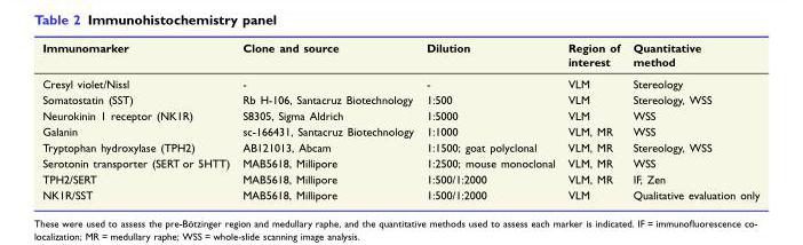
<table><thead><tr><td>Immunomarker</td><td>Clone and source</td><td>Dilution</td><td>Region of interest</td><td>Quantitative method</td></tr></thead><tbody><tr><td>Cresyl violet/Nissl</td><td>-</td><td>-</td><td>VLM</td><td>Stereology</td></tr><tr><td>Somatostatin (SST)</td><td>Rb H-106, Santacruz Biotechnology</td><td>1:500</td><td>VLM</td><td>Stereology, WSS</td></tr><tr><td>Neurokinin 1 receptor (NK1R)</td><td>S8305, Sigma Aldrich</td><td>1:5000</td><td>VLM</td><td>WSS</td></tr><tr><td>Galanin</td><td>sc-166431, Santacruz Biotechnology</td><td>1:1000</td><td>VLM, MR</td><td>WSS</td></tr><tr><td>Tryptophan hydroxylase (TPH2)</td><td>AB121013, Abcam</td><td>1:1500; goat polyclonal</td><td>VLM, MR</td><td>Stereology, WSS</td></tr><tr><td>Serotonin transporter (SERT or 5HTT)</td><td>MAB5618, Millipore</td><td>1:2500; mouse monoclonal</td><td>VLM, MR</td><td>WSS</td></tr><tr><td>TPH2/SERT</td><td>MAB5618, Millipore</td><td>1:500/1:2000</td><td>VLM, MR</td><td>IF, Zen</td></tr><tr><td>NK1R/SST</td><td>MAB5618, Millipore</td><td>1:500/1:2000</td><td>VLM</td><td>Qualitative evaluation only</td></tr></tbody></table>